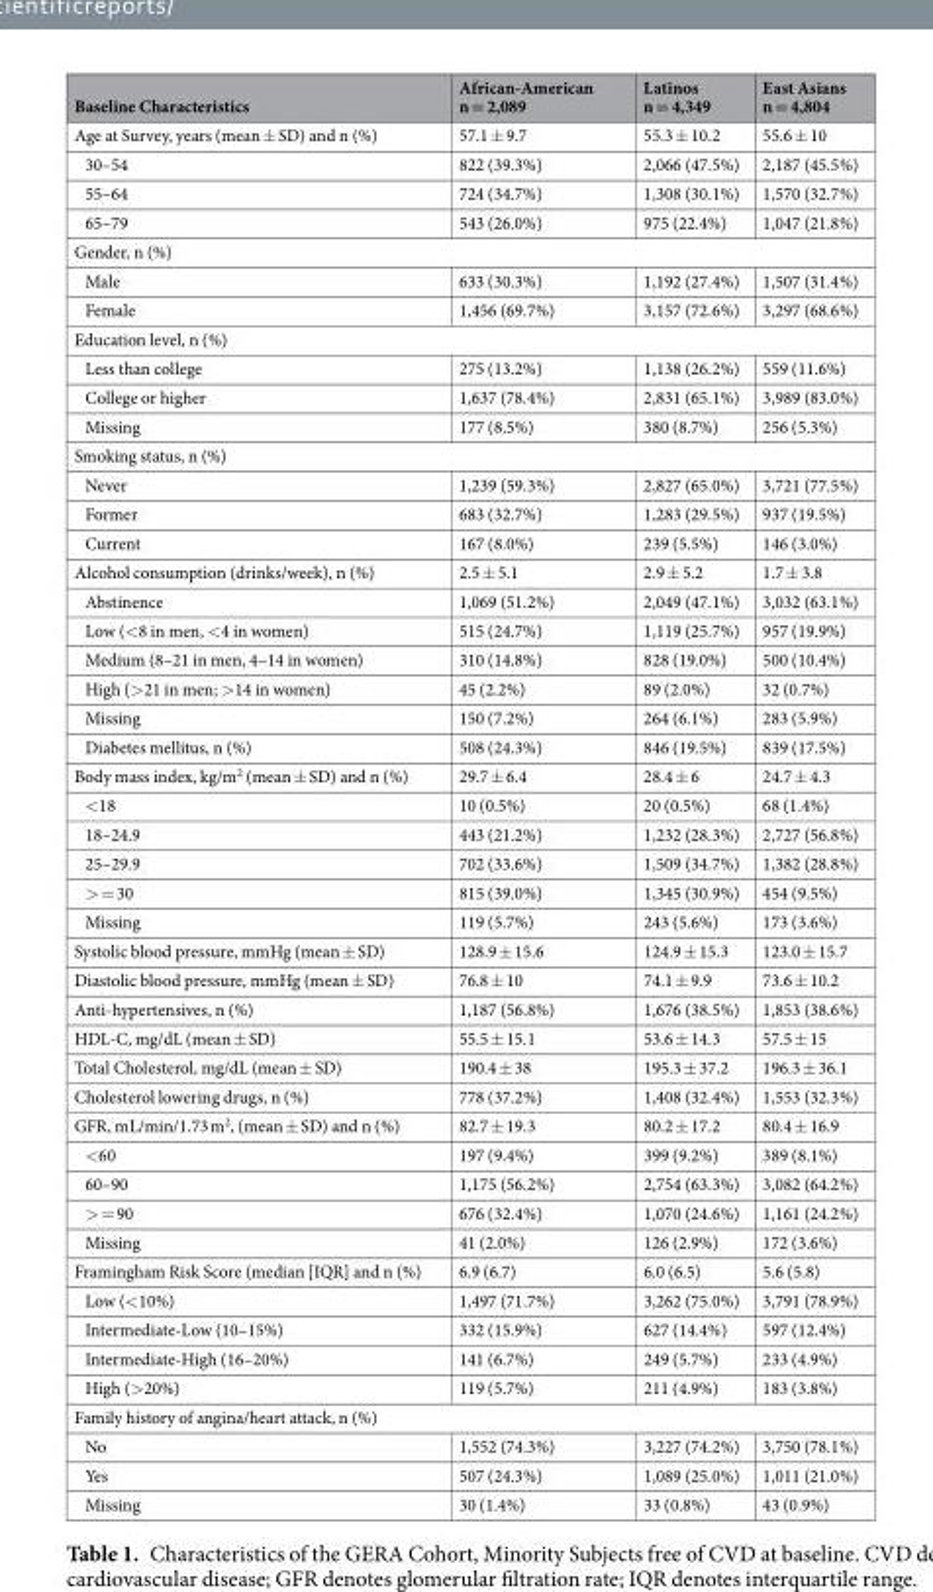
<table><thead><tr><td>Baseline Characteristics</td><td>African-American n = 2,089</td><td>Latinos n = 4,349</td><td>East Asians n = 4,804</td></tr></thead><tbody><tr><td>Age at Survey, years (mean ± SD) and n (%)</td><td>57.1 ± 9.7</td><td>55.3 ± 10.2</td><td>55.6 ± 10</td></tr><tr><td>30–54</td><td>822 (39.3%)</td><td>2,066 (47.5%)</td><td>2,187 (45.5%)</td></tr><tr><td>55–64</td><td>724 (34.7%)</td><td>1,308 (30.1%)</td><td>1,570 (32.7%)</td></tr><tr><td>65–79</td><td>543 (26.0%)</td><td>975 (22.4%)</td><td>1,047 (21.8%)</td></tr><tr><td colspan="4">Gender, n (%)</td></tr><tr><td>Male</td><td>633 (30.3%)</td><td>1,192 (27.4%)</td><td>1,507 (31.4%)</td></tr><tr><td>Female</td><td>1,456 (69.7%)</td><td>3,157 (72.6%)</td><td>3,297 (68.6%)</td></tr><tr><td colspan="4">Education level, n (%)</td></tr><tr><td>Less than college</td><td>275 (13.2%)</td><td>1,138 (26.2%)</td><td>559 (11.6%)</td></tr><tr><td>College or higher</td><td>1,637 (78.4%)</td><td>2,831 (65.1%)</td><td>3,989 (83.0%)</td></tr><tr><td>Missing</td><td>177 (8.5%)</td><td>380 (8.7%)</td><td>256 (5.3%)</td></tr><tr><td colspan="4">Smoking status, n (%)</td></tr><tr><td>Never</td><td>1,239 (59.3%)</td><td>2,827 (65.0%)</td><td>3,721 (77.5%)</td></tr><tr><td>Former</td><td>683 (32.7%)</td><td>1,283 (29.5%)</td><td>937 (19.5%)</td></tr><tr><td>Current</td><td>167 (8.0%)</td><td>239 (5.5%)</td><td>146 (3.0%)</td></tr><tr><td>Alcohol consumption (drinks/week), n (%)</td><td>2.5 ± 5.1</td><td>2.9 ± 5.2</td><td>1.7 ± 3.8</td></tr><tr><td>Abstinence</td><td>1,069 (51.2%)</td><td>2,049 (47.1%)</td><td>3,032 (63.1%)</td></tr><tr><td>Low (&lt;8 in men, &lt;4 in women)</td><td>515 (24.7%)</td><td>1,119 (25.7%)</td><td>957 (19.9%)</td></tr><tr><td>Medium (8–21 in men, 4–14 in women)</td><td>310 (14.8%)</td><td>828 (19.0%)</td><td>500 (10.4%)</td></tr><tr><td>High (&gt;21 in men; &gt;14 in women)</td><td>45 (2.2%)</td><td>89 (2.0%)</td><td>32 (0.7%)</td></tr><tr><td>Missing</td><td>150 (7.2%)</td><td>264 (6.1%)</td><td>283 (5.9%)</td></tr><tr><td>Diabetes mellitus, n (%)</td><td>508 (24.3%)</td><td>846 (19.5%)</td><td>839 (17.5%)</td></tr><tr><td>Body mass index, kg/m<sup>2</sup> (mean ± SD) and n (%)</td><td>29.7 ± 6.4</td><td>28.4 ± 6</td><td>24.7 ± 4.3</td></tr><tr><td>&lt;18</td><td>10 (0.5%)</td><td>20 (0.5%)</td><td>68 (1.4%)</td></tr><tr><td>18–24.9</td><td>443 (21.2%)</td><td>1,232 (28.3%)</td><td>2,727 (56.8%)</td></tr><tr><td>25–29.9</td><td>702 (33.6%)</td><td>1,509 (34.7%)</td><td>1,382 (28.8%)</td></tr><tr><td>&gt; = 30</td><td>815 (39.0%)</td><td>1,345 (30.9%)</td><td>454 (9.5%)</td></tr><tr><td>Missing</td><td>119 (5.7%)</td><td>243 (5.6%)</td><td>173 (3.6%)</td></tr><tr><td>Systolic blood pressure, mmHg (mean ± SD)</td><td>128.9 ± 15.6</td><td>124.9 ± 15.3</td><td>123.0 ± 15.7</td></tr><tr><td>Diastolic blood pressure, mmHg (mean ± SD)</td><td>76.8 ± 10</td><td>74.1 ± 9.9</td><td>73.6 ± 10.2</td></tr><tr><td>Anti-hypertensives, n (%)</td><td>1,187 (56.8%)</td><td>1,676 (38.5%)</td><td>1,853 (38.6%)</td></tr><tr><td>HDL-C, mg/dL (mean ± SD)</td><td>55.5 ± 15.1</td><td>53.6 ± 14.3</td><td>57.5 ± 15</td></tr><tr><td>Total Cholesterol, mg/dL (mean ± SD)</td><td>190.4 ± 38</td><td>195.3 ± 37.2</td><td>196.3 ± 36.1</td></tr><tr><td>Cholesterol lowering drugs, n (%)</td><td>778 (37.2%)</td><td>1,408 (32.4%)</td><td>1,553 (32.3%)</td></tr><tr><td>GFR, mL/min/1.73 m<sup>2</sup>, (mean ± SD) and n (%)</td><td>82.7 ± 19.3</td><td>80.2 ± 17.2</td><td>80.4 ± 16.9</td></tr><tr><td>&lt;60</td><td>197 (9.4%)</td><td>399 (9.2%)</td><td>389 (8.1%)</td></tr><tr><td>60–90</td><td>1,175 (56.2%)</td><td>2,754 (63.3%)</td><td>3,082 (64.2%)</td></tr><tr><td>&gt; = 90</td><td>676 (32.4%)</td><td>1,070 (24.6%)</td><td>1,161 (24.2%)</td></tr><tr><td>Missing</td><td>41 (2.0%)</td><td>126 (2.9%)</td><td>172 (3.6%)</td></tr><tr><td>Framingham Risk Score (median [IQR] and n (%)</td><td>6.9 (6.7)</td><td>6.0 (6.5)</td><td>5.6 (5.8)</td></tr><tr><td>Low (&lt;10%)</td><td>1,497 (71.7%)</td><td>3,262 (75.0%)</td><td>3,791 (78.9%)</td></tr><tr><td>Intermediate-Low (10–15%)</td><td>332 (15.9%)</td><td>627 (14.4%)</td><td>597 (12.4%)</td></tr><tr><td>Intermediate-High (16–20%)</td><td>141 (6.7%)</td><td>249 (5.7%)</td><td>233 (4.9%)</td></tr><tr><td>High (&gt;20%)</td><td>119 (5.7%)</td><td>211 (4.9%)</td><td>183 (3.8%)</td></tr><tr><td colspan="4">Family history of angina/heart attack, n (%)</td></tr><tr><td>No</td><td>1,552 (74.3%)</td><td>3,227 (74.2%)</td><td>3,750 (78.1%)</td></tr><tr><td>Yes</td><td>507 (24.3%)</td><td>1,089 (25.0%)</td><td>1,011 (21.0%)</td></tr><tr><td>Missing</td><td>30 (1.4%)</td><td>33 (0.8%)</td><td>43 (0.9%)</td></tr></tbody></table>